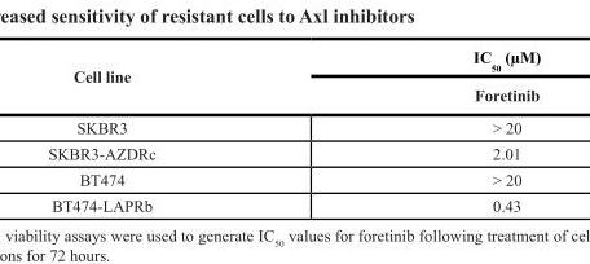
<table><thead><tr><td rowspan="2">Cell line</td><td rowspan="2">IC <sub>50</sub> (µM) Foretinib</td></tr><tr></tr></thead><tbody><tr><td>SKBR3</td><td>&gt; 20</td></tr><tr><td>SKBR3-AZDRc</td><td>2.01</td></tr><tr><td>BT474</td><td>&gt; 20</td></tr><tr><td>BT474-LAPRb</td><td>0.43</td></tr></tbody></table>